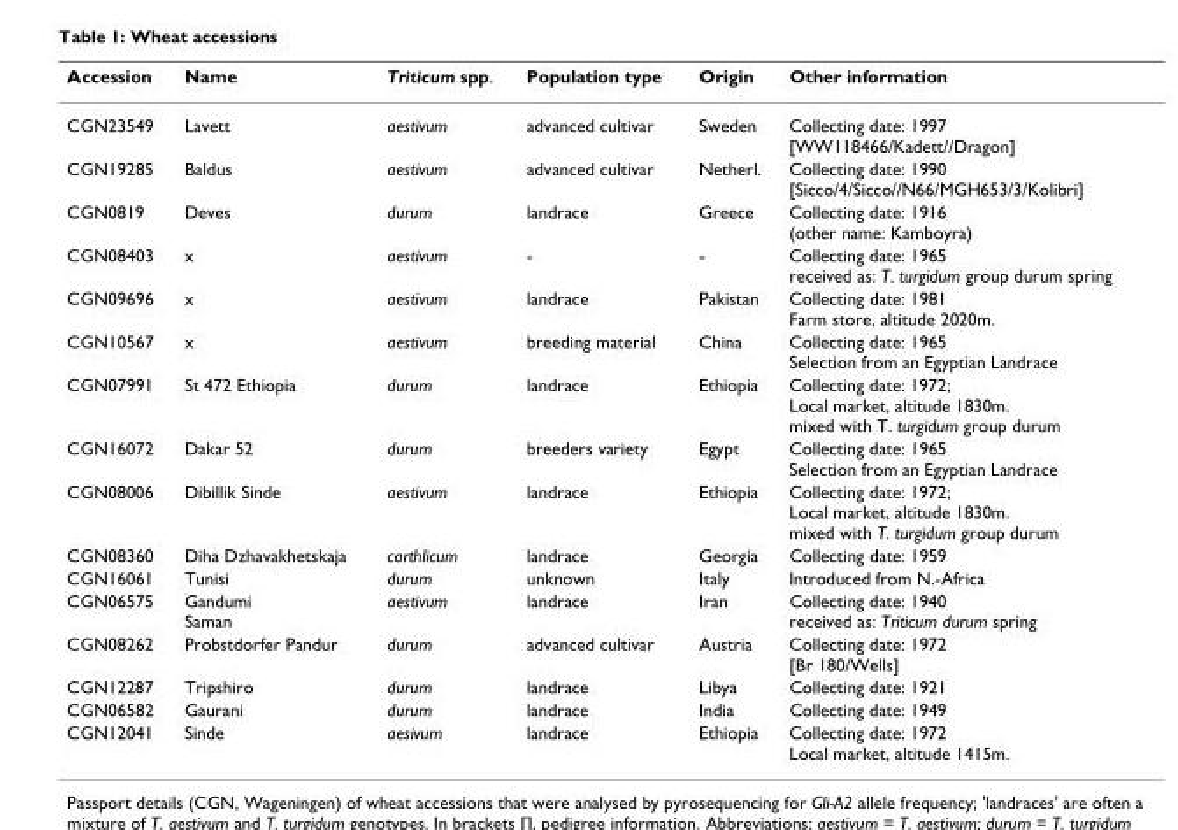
<table><thead><tr><td>Accession</td><td>Name</td><td>Triticum spp.</td><td>Population type</td><td>Origin</td><td>Other information</td></tr></thead><tbody><tr><td>CGN23549</td><td>Lavett</td><td>aestivum</td><td>advanced cultivar</td><td>Sweden</td><td>Collecting date: 1997 [WW118466/Kadett//Dragon]</td></tr><tr><td>CGN19285</td><td>Baldus</td><td>aestivum</td><td>advanced cultivar</td><td>Netherl.</td><td>Collecting date: 1990 [Sicco/4/Sicco//N66/MGH653/3/Kolibri]</td></tr><tr><td>CGN0819</td><td>Deves</td><td>durum</td><td>landrace</td><td>Greece</td><td>Collecting date: 1916 (other name: Kamboyra)</td></tr><tr><td>CGN08403</td><td>x</td><td>aestivum</td><td>-</td><td>-</td><td>Collecting date: 1965 received as: T. turgidum group durum spring</td></tr><tr><td>CGN09696</td><td>x</td><td>aestivum</td><td>landrace</td><td>Pakistan</td><td>Collecting date: 1981 Farm store, altitude 2020m.</td></tr><tr><td>CGN10567</td><td>x</td><td>aestivum</td><td>breeding material</td><td>China</td><td>Collecting date: 1965 Selection from an Egyptian Landrace</td></tr><tr><td>CGN07991</td><td>St 472 Ethiopia</td><td>durum</td><td>landrace</td><td>Ethiopia</td><td>Collecting date: 1972; Local market, altitude 1830m. mixed with T. turgidum group durum</td></tr><tr><td>CGN16072</td><td>Dakar 52</td><td>durum</td><td>breeders variety</td><td>Egypt</td><td>Collecting date: 1965 Selection from an Egyptian Landrace</td></tr><tr><td>CGN08006</td><td>Dibillik Sinde</td><td>aestivum</td><td>landrace</td><td>Ethiopia</td><td>Collecting date: 1972; Local market, altitude 1830m. mixed with T. turgidum group durum</td></tr><tr><td>CGN08360</td><td>Diha Dzhavakhetskaja</td><td>carthlicum</td><td>landrace</td><td>Georgia</td><td>Collecting date: 1959</td></tr><tr><td>CGN16061</td><td>Tunisi</td><td>durum</td><td>unknown</td><td>Italy</td><td>Introduced from N.-Africa</td></tr><tr><td>CGN06575</td><td>Gandumi Saman</td><td>aestivum</td><td>landrace</td><td>Iran</td><td>Collecting date: 1940 received as: Triticum durum spring</td></tr><tr><td>CGN08262</td><td>Probstdorfer Pandur</td><td>durum</td><td>advanced cultivar</td><td>Austria</td><td>Collecting date: 1972 [Br 180/Wells]</td></tr><tr><td>CGN12287</td><td>Tripshiro</td><td>durum</td><td>landrace</td><td>Libya</td><td>Collecting date: 1921</td></tr><tr><td>CGN06582</td><td>Gaurani</td><td>durum</td><td>landrace</td><td>India</td><td>Collecting date: 1949</td></tr><tr><td>CGN12041</td><td>Sinde</td><td>aesivum</td><td>landrace</td><td>Ethiopia</td><td>Collecting date: 1972 Local market, altitude 1415m.</td></tr></tbody></table>